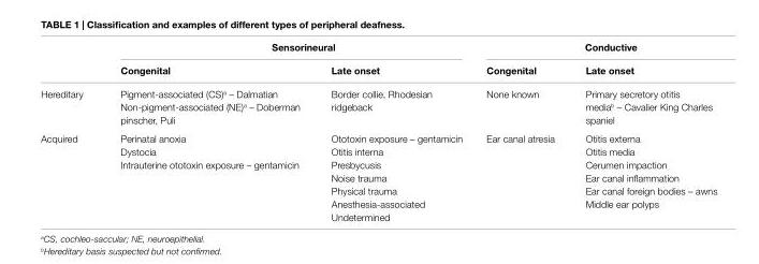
<table><thead><tr><td rowspan="2"></td><td colspan="2">Sensorineural</td><td colspan="2">Conductive</td></tr><tr><td>Congenital</td><td>Late onset</td><td>Congenital</td><td>Late onset</td></tr></thead><tbody><tr><td>Hereditary</td><td>Pigment-associated (CS)<sup>a</sup> – Dalmatian Non-pigment-associated (NE)<sup>a</sup> – Doberman pinscher, Puli</td><td>Border collie, Rhodesian ridgeback</td><td>None known</td><td>Primary secretory otitis media<sup>b</sup> – Cavalier King Charles spaniel</td></tr><tr><td>Acquired</td><td>Perinatal anoxia Dystocia Intrauterine ototoxin exposure – gentamicin</td><td>Ototoxin exposure – gentamicin Otitis interna Presbycusis Noise trauma Physical trauma Anesthesia-associated Undetermined</td><td>Ear canal atresia</td><td>Otitis externa Otitis media Cerumen impaction Ear canal inflammation Ear canal foreign bodies – awns Middle ear polyps</td></tr></tbody></table>